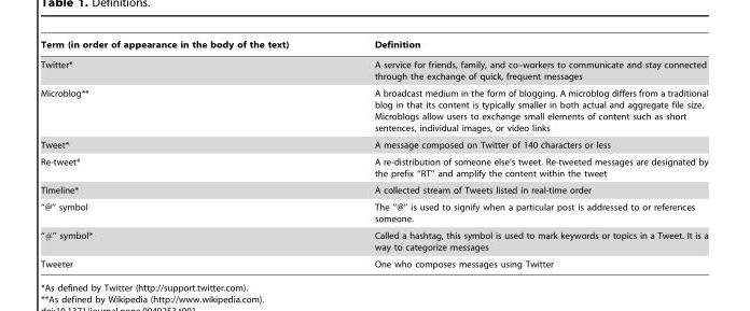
<table><thead><tr><td>Term (in order of appearance in the body of the text)</td><td>Definition</td></tr></thead><tbody><tr><td>Twitter*</td><td>A service for friends, family, and co–workers to communicate and stay connected through the exchange of quick, frequent messages</td></tr><tr><td>Microblog**</td><td>A broadcast medium in the form of blogging. A microblog differs from a traditional blog in that its content is typically smaller in both actual and aggregate file size. Microblogs allow users to exchange small elements of content such as short sentences, individual images, or video links</td></tr><tr><td>Tweet*</td><td>A message composed on Twitter of 140 characters or less</td></tr><tr><td>Re-tweet*</td><td>A re-distribution of someone else’s tweet. Re-tweeted messages are designated by the prefix ‘‘RT’’ and amplify the content within the tweet</td></tr><tr><td>Timeline*</td><td>A collected stream of Tweets listed in real-time order</td></tr><tr><td>‘‘@’’ symbol</td><td>The ‘‘@’’ is used to signify when a particular post is addressed to or references someone.</td></tr><tr><td>‘‘#’’ symbol*</td><td>Called a hashtag, this symbol is used to mark keywords or topics in a Tweet. It is a way to categorize messages</td></tr><tr><td>Tweeter</td><td>One who composes messages using Twitter</td></tr></tbody></table>